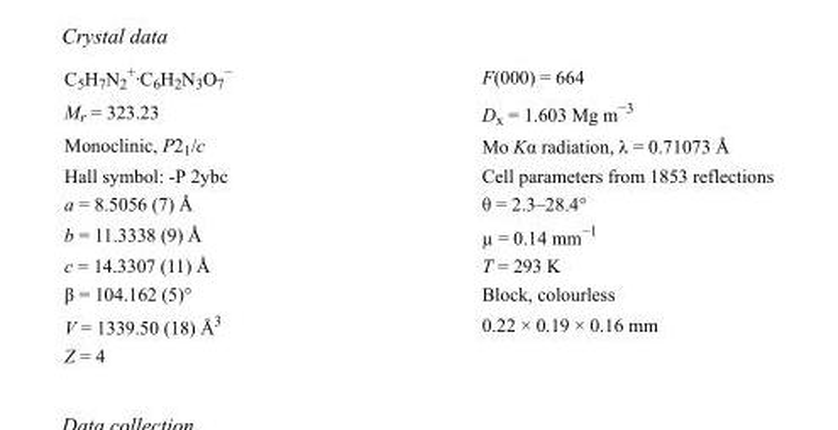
<table><tbody><tr><td>C<sub>5</sub>H<sub>7</sub>N<sub>2</sub> <sup>+</sup>·C<sub>6</sub>H<sub>2</sub>N<sub>3</sub>O<sub>7</sub> <sup>−</sup></td><td>F(000) = 664</td></tr><tr><td>M<sub>r</sub> = 323.23</td><td>D<sub>x</sub> = 1.603 Mg m<sup>−3</sup></td></tr><tr><td>Monoclinic, P2<sub>1</sub>/c</td><td>Mo Kα radiation, λ = 0.71073 Å</td></tr><tr><td>Hall symbol: -P 2ybc</td><td>Cell parameters from 1853 reflections</td></tr><tr><td>a = 8.5056 (7) Å</td><td>θ = 2.3–28.4°</td></tr><tr><td>b = 11.3338 (9) Å</td><td>µ = 0.14 mm<sup>−1</sup></td></tr><tr><td>c = 14.3307 (11) Å</td><td>T = 293 K</td></tr><tr><td>β = 104.162 (5)°</td><td>Block, colourless</td></tr><tr><td>V = 1339.50 (18) Å<sup>3</sup></td><td>0.22 × 0.19 × 0.16 mm</td></tr><tr><td>Z = 4</td><td></td></tr></tbody></table>